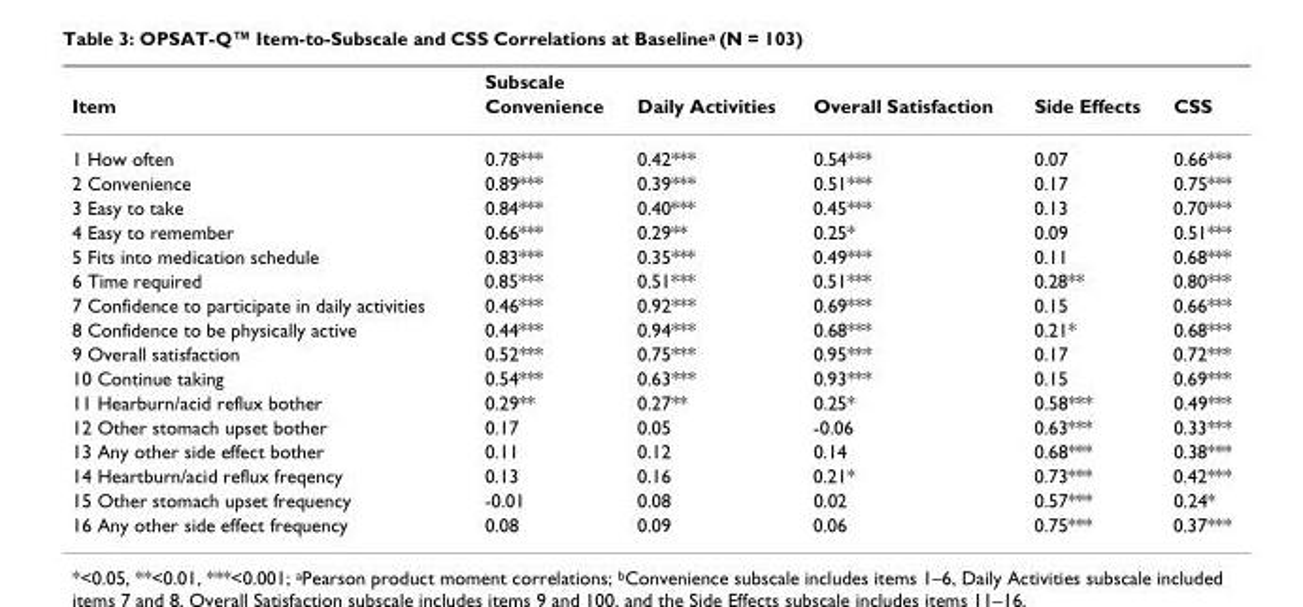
<table><thead><tr><td rowspan="2">Item</td><td colspan="5">Subscale</td></tr><tr><td>Convenience</td><td>Daily Activities</td><td>Overall Satisfaction</td><td>Side Effects</td><td>CSS</td></tr></thead><tbody><tr><td>1 How often</td><td>0.78***</td><td>0.42***</td><td>0.54***</td><td>0.07</td><td>0.66***</td></tr><tr><td>2 Convenience</td><td>0.89***</td><td>0.39***</td><td>0.51***</td><td>0.17</td><td>0.75***</td></tr><tr><td>3 Easy to take</td><td>0.84***</td><td>0.40***</td><td>0.45***</td><td>0.13</td><td>0.70***</td></tr><tr><td>4 Easy to remember</td><td>0.66***</td><td>0.29**</td><td>0.25*</td><td>0.09</td><td>0.51***</td></tr><tr><td>5 Fits into medication schedule</td><td>0.83***</td><td>0.35***</td><td>0.49***</td><td>0.11</td><td>0.68***</td></tr><tr><td>6 Time required</td><td>0.85***</td><td>0.51***</td><td>0.51***</td><td>0.28**</td><td>0.80***</td></tr><tr><td>7 Confidence to participate in daily activities</td><td>0.46***</td><td>0.92***</td><td>0.69***</td><td>0.15</td><td>0.66***</td></tr><tr><td>8 Confidence to be physically active</td><td>0.44***</td><td>0.94***</td><td>0.68***</td><td>0.21*</td><td>0.68***</td></tr><tr><td>9 Overall satisfaction</td><td>0.52***</td><td>0.75***</td><td>0.95***</td><td>0.17</td><td>0.72***</td></tr><tr><td>10 Continue taking</td><td>0.54***</td><td>0.63***</td><td>0.93***</td><td>0.15</td><td>0.69***</td></tr><tr><td>11 Hearburn/acid reflux bother</td><td>0.29**</td><td>0.27**</td><td>0.25*</td><td>0.58***</td><td>0.49***</td></tr><tr><td>12 Other stomach upset bother</td><td>0.17</td><td>0.05</td><td>-0.06</td><td>0.63***</td><td>0.33***</td></tr><tr><td>13 Any other side effect bother</td><td>0.11</td><td>0.12</td><td>0.14</td><td>0.68***</td><td>0.38***</td></tr><tr><td>14 Heartburn/acid reflux freqency</td><td>0.13</td><td>0.16</td><td>0.21*</td><td>0.73***</td><td>0.42***</td></tr><tr><td>15 Other stomach upset frequency</td><td>-0.01</td><td>0.08</td><td>0.02</td><td>0.57***</td><td>0.24*</td></tr><tr><td>16 Any other side effect frequency</td><td>0.08</td><td>0.09</td><td>0.06</td><td>0.75***</td><td>0.37***</td></tr></tbody></table>